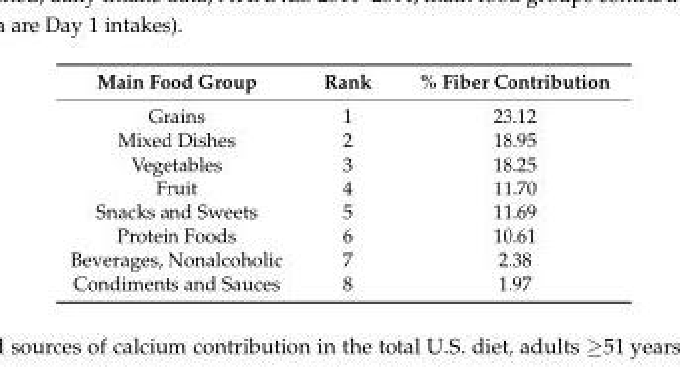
<table><thead><tr><td>Main Food Group</td><td>Rank</td><td>% Fiber Contribution</td></tr></thead><tbody><tr><td>Grains</td><td>1</td><td>23.12</td></tr><tr><td>Mixed Dishes</td><td>2</td><td>18.95</td></tr><tr><td>Vegetables</td><td>3</td><td>18.25</td></tr><tr><td>Fruit</td><td>4</td><td>11.70</td></tr><tr><td>Snacks and Sweets</td><td>5</td><td>11.69</td></tr><tr><td>Protein Foods</td><td>6</td><td>10.61</td></tr><tr><td>Beverages, Nonalcoholic</td><td>7</td><td>2.38</td></tr><tr><td>Condiments and Sauces</td><td>8</td><td>1.97</td></tr></tbody></table>